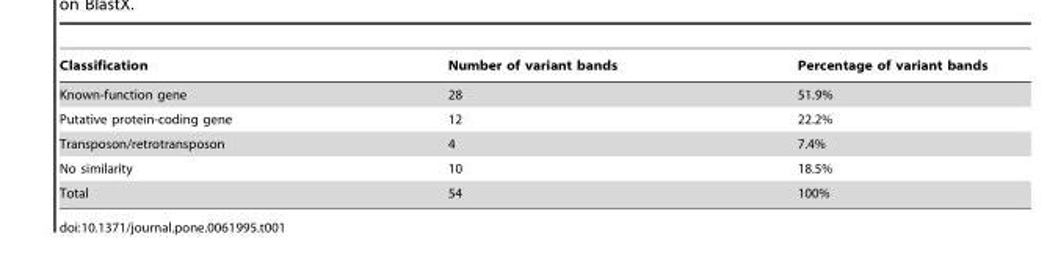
<table><thead><tr><td>Classification</td><td>Number of variant bands</td><td>Percentage of variant bands</td></tr></thead><tbody><tr><td>Known-function gene</td><td>28</td><td>51.9%</td></tr><tr><td>Putative protein-coding gene</td><td>12</td><td>22.2%</td></tr><tr><td>Transposon/retrotransposon</td><td>4</td><td>7.4%</td></tr><tr><td>No similarity</td><td>10</td><td>18.5%</td></tr><tr><td>Total</td><td>54</td><td>100%</td></tr></tbody></table>